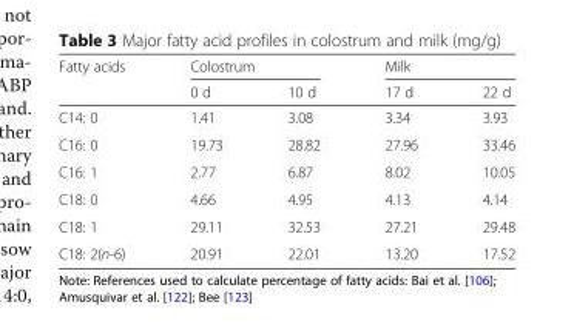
<table><thead><tr><td rowspan="2">Fatty acids</td><td colspan="2">Colostrum</td><td colspan="2">Milk</td></tr><tr><td>0 d</td><td>10 d</td><td>17 d</td><td>22 d</td></tr></thead><tbody><tr><td>C14: 0</td><td>1.41</td><td>3.08</td><td>3.34</td><td>3.93</td></tr><tr><td>C16: 0</td><td>19.73</td><td>28.82</td><td>27.96</td><td>33.46</td></tr><tr><td>C16: 1</td><td>2.77</td><td>6.87</td><td>8.02</td><td>10.05</td></tr><tr><td>C18: 0</td><td>4.66</td><td>4.95</td><td>4.13</td><td>4.14</td></tr><tr><td>C18: 1</td><td>29.11</td><td>32.53</td><td>27.21</td><td>29.48</td></tr><tr><td>C18: 2(n-6)</td><td>20.91</td><td>22.01</td><td>13.20</td><td>17.52</td></tr></tbody></table>